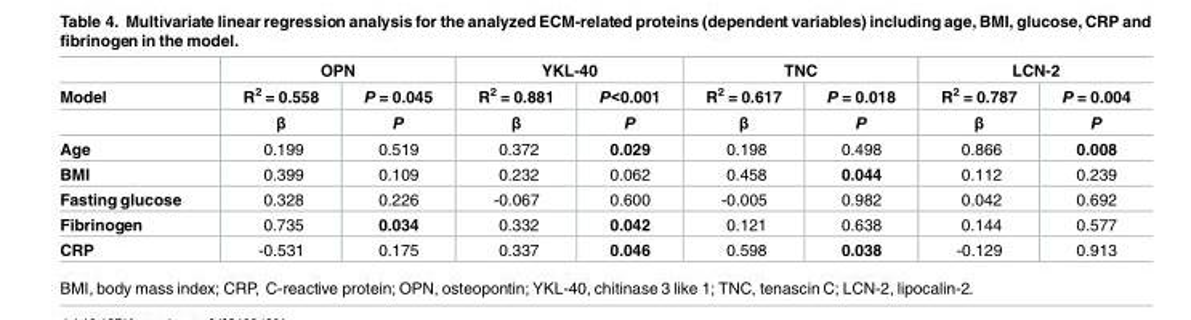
<table><thead><tr><td rowspan="3">Model</td><td colspan="2">OPN</td><td colspan="2">YKL-40</td><td colspan="2">TNC</td><td colspan="2">LCN-2</td></tr><tr><td rowspan="2">R<sup>2</sup> = 0.558 β</td><td rowspan="2">P = 0.045 P</td><td rowspan="2">R<sup>2</sup> = 0.881 β</td><td rowspan="2">P&lt;0.001 P</td><td rowspan="2">R<sup>2</sup> = 0.617 β</td><td rowspan="2">P = 0.018 P</td><td rowspan="2">R<sup>2</sup> = 0.787 β</td><td rowspan="2">P = 0.004 P</td></tr><tr></tr></thead><tbody><tr><td>Age</td><td>0.199</td><td>0.519</td><td>0.372</td><td>0.029</td><td>0.198</td><td>0.498</td><td>0.866</td><td>0.008</td></tr><tr><td>BMI</td><td>0.399</td><td>0.109</td><td>0.232</td><td>0.062</td><td>0.458</td><td>0.044</td><td>0.112</td><td>0.239</td></tr><tr><td>Fasting glucose</td><td>0.328</td><td>0.226</td><td>-0.067</td><td>0.600</td><td>-0.005</td><td>0.982</td><td>0.042</td><td>0.692</td></tr><tr><td>Fibrinogen</td><td>0.735</td><td>0.034</td><td>0.332</td><td>0.042</td><td>0.121</td><td>0.638</td><td>0.144</td><td>0.577</td></tr><tr><td>CRP</td><td>-0.531</td><td>0.175</td><td>0.337</td><td>0.046</td><td>0.598</td><td>0.038</td><td>-0.129</td><td>0.913</td></tr></tbody></table>